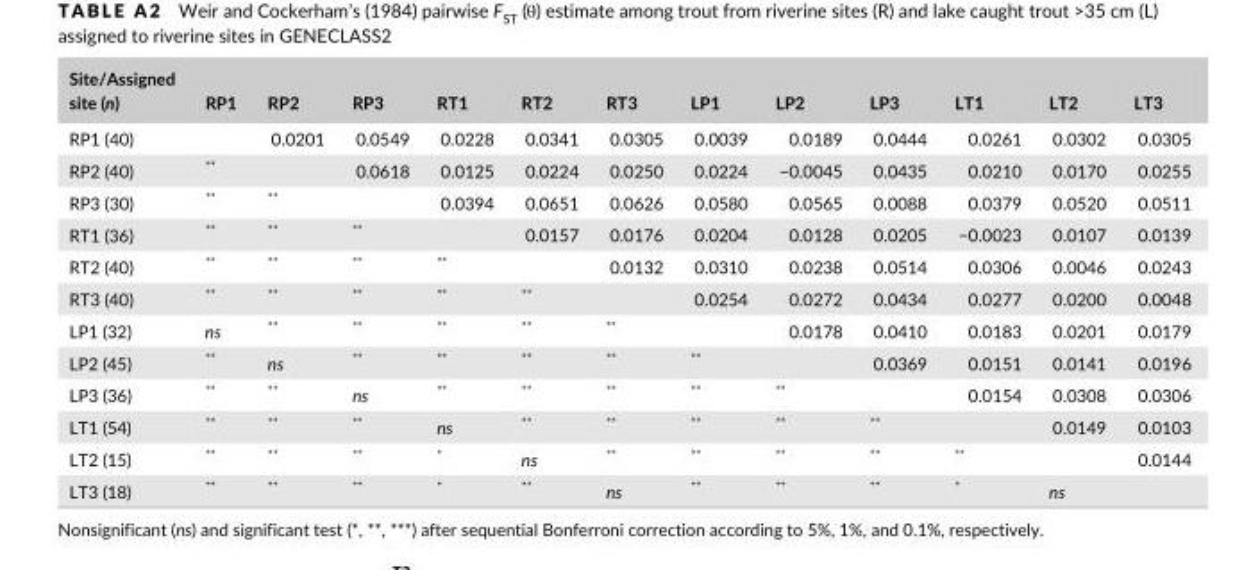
<table><thead><tr><td>Site/Assigned site (n)</td><td>RP1</td><td>RP2</td><td>RP3</td><td>RT1</td><td>RT2</td><td>RT3</td><td>LP1</td><td>LP2</td><td>LP3</td><td>LT1</td><td>LT2</td><td>LT3</td></tr></thead><tbody><tr><td>RP1 (40)</td><td></td><td>0.0201</td><td>0.0549</td><td>0.0228</td><td>0.0341</td><td>0.0305</td><td>0.0039</td><td>0.0189</td><td>0.0444</td><td>0.0261</td><td>0.0302</td><td>0.0305</td></tr><tr><td>RP2 (40)</td><td>**</td><td></td><td>0.0618</td><td>0.0125</td><td>0.0224</td><td>0.0250</td><td>0.0224</td><td>−0.0045</td><td>0.0435</td><td>0.0210</td><td>0.0170</td><td>0.0255</td></tr><tr><td>RP3 (30)</td><td>**</td><td>**</td><td></td><td>0.0394</td><td>0.0651</td><td>0.0626</td><td>0.0580</td><td>0.0565</td><td>0.0088</td><td>0.0379</td><td>0.0520</td><td>0.0511</td></tr><tr><td>RT1 (36)</td><td>**</td><td>**</td><td>**</td><td></td><td>0.0157</td><td>0.0176</td><td>0.0204</td><td>0.0128</td><td>0.0205</td><td>−0.0023</td><td>0.0107</td><td>0.0139</td></tr><tr><td>RT2 (40)</td><td>**</td><td>**</td><td>**</td><td>**</td><td></td><td>0.0132</td><td>0.0310</td><td>0.0238</td><td>0.0514</td><td>0.0306</td><td>0.0046</td><td>0.0243</td></tr><tr><td>RT3 (40)</td><td>**</td><td>**</td><td>**</td><td>**</td><td>**</td><td></td><td>0.0254</td><td>0.0272</td><td>0.0434</td><td>0.0277</td><td>0.0200</td><td>0.0048</td></tr><tr><td>LP1 (32)</td><td>ns</td><td>**</td><td>**</td><td>**</td><td>**</td><td>**</td><td></td><td>0.0178</td><td>0.0410</td><td>0.0183</td><td>0.0201</td><td>0.0179</td></tr><tr><td>LP2 (45)</td><td>**</td><td>ns</td><td>**</td><td>**</td><td>**</td><td>**</td><td>**</td><td></td><td>0.0369</td><td>0.0151</td><td>0.0141</td><td>0.0196</td></tr><tr><td>LP3 (36)</td><td>**</td><td>**</td><td>ns</td><td>**</td><td>**</td><td>**</td><td>**</td><td>**</td><td></td><td>0.0154</td><td>0.0308</td><td>0.0306</td></tr><tr><td>LT1 (54)</td><td>**</td><td>**</td><td>**</td><td>ns</td><td>**</td><td>**</td><td>**</td><td>**</td><td>**</td><td></td><td>0.0149</td><td>0.0103</td></tr><tr><td>LT2 (15)</td><td>**</td><td>**</td><td>**</td><td>*</td><td>ns</td><td>**</td><td>**</td><td>**</td><td>**</td><td>**</td><td></td><td>0.0144</td></tr><tr><td>LT3 (18)</td><td>**</td><td>**</td><td>**</td><td>*</td><td>**</td><td>ns</td><td>**</td><td>**</td><td>**</td><td>*</td><td>ns</td><td></td></tr></tbody></table>